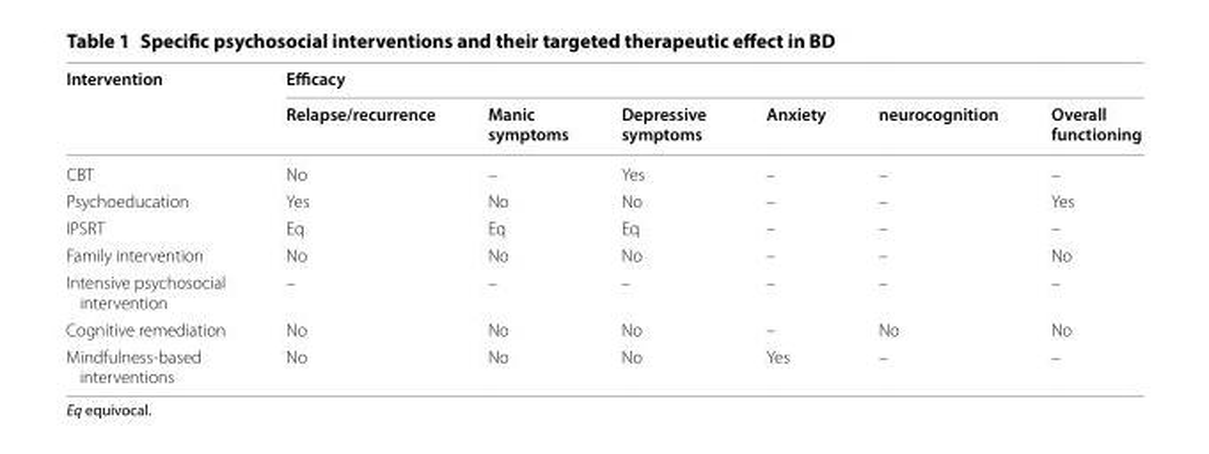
<table><thead><tr><td rowspan="2">Intervention</td><td colspan="6">Efficacy</td></tr><tr><td>Relapse/recurrence</td><td>Manic symptoms</td><td>Depressive symptoms</td><td>Anxiety</td><td>neurocognition</td><td>Overall functioning</td></tr></thead><tbody><tr><td>CBT</td><td>No</td><td>–</td><td>Yes</td><td>–</td><td>–</td><td>–</td></tr><tr><td>Psychoeducation</td><td>Yes</td><td>No</td><td>No</td><td>–</td><td>–</td><td>Yes</td></tr><tr><td>IPSRT</td><td>Eq</td><td>Eq</td><td>Eq</td><td>–</td><td>–</td><td>–</td></tr><tr><td>Family intervention</td><td>No</td><td>No</td><td>No</td><td>–</td><td>–</td><td>No</td></tr><tr><td>Intensive psychosocial intervention</td><td>–</td><td>–</td><td>–</td><td>–</td><td>–</td><td>–</td></tr><tr><td>Cognitive remediation</td><td>No</td><td>No</td><td>No</td><td>–</td><td>No</td><td>No</td></tr><tr><td>Mindfulness-based interventions</td><td>No</td><td>No</td><td>No</td><td>Yes</td><td>–</td><td>–</td></tr></tbody></table>